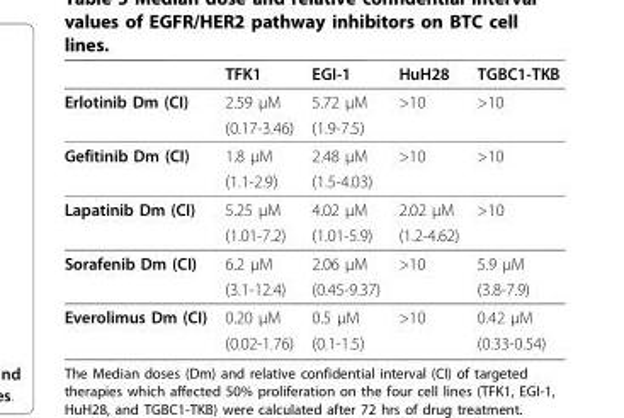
<table><thead><tr><td></td><td>TFK1</td><td>EGI-1</td><td>HuH28</td><td>TGBC1-TKB</td></tr></thead><tbody><tr><td rowspan="2">Erlotinib Dm (CI)</td><td>2.59 μM</td><td>5.72 μM</td><td>&gt;10</td><td>&gt;10</td></tr><tr><td>(0.17-3.46)</td><td>(1.9-7.5)</td><td></td><td></td></tr><tr><td rowspan="2">Gefitinib Dm (CI)</td><td>1.8 μM</td><td>2.48 μM</td><td>&gt;10</td><td>&gt;10</td></tr><tr><td>(1.1-2.9)</td><td>(1.5-4.03)</td><td></td><td></td></tr><tr><td rowspan="2">Lapatinib Dm (CI)</td><td>5.25 μM</td><td>4.02 μM</td><td>2.02 μM</td><td>&gt;10</td></tr><tr><td>(1.01-7.2)</td><td>(1.01-5.9)</td><td>(1.2-4.62)</td><td></td></tr><tr><td rowspan="2">Sorafenib Dm (CI)</td><td>6.2 μM</td><td>2.06 μM</td><td>&gt;10</td><td>5.9 μM</td></tr><tr><td>(3.1-12.4)</td><td>(0.45-9.37)</td><td></td><td>(3.8-7.9)</td></tr><tr><td rowspan="2">Everolimus Dm (CI)</td><td>0.20 μM</td><td>0.5 μM</td><td>&gt;10</td><td>0.42 μM</td></tr><tr><td>(0.02-1.76)</td><td>(0.1-1.5)</td><td></td><td>(0.33-0.54)</td></tr></tbody></table>